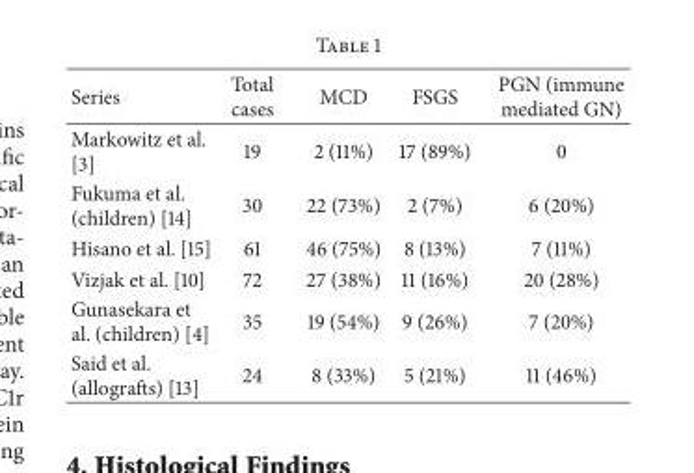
<table><thead><tr><td>Series</td><td>Total cases</td><td>MCD</td><td>FSGS</td><td>PGN (immune mediated GN)</td></tr></thead><tbody><tr><td>Markowitz et al. [3]</td><td>19</td><td>2 (11%)</td><td>17 (89%)</td><td>0</td></tr><tr><td>Fukuma et al. (children) [14]</td><td>30</td><td>22 (73%)</td><td>2 (7%)</td><td>6 (20%)</td></tr><tr><td>Hisano et al. [15]</td><td>61</td><td>46 (75%)</td><td>8 (13%)</td><td>7 (11%)</td></tr><tr><td>Vizjak et al. [10]</td><td>72</td><td>27 (38%)</td><td>11 (16%)</td><td>20 (28%)</td></tr><tr><td>Gunasekara et al. (children) [4]</td><td>35</td><td>19 (54%)</td><td>9 (26%)</td><td>7 (20%)</td></tr><tr><td>Said et al. (allografts) [13]</td><td>24</td><td>8 (33%)</td><td>5 (21%)</td><td>11 (46%)</td></tr></tbody></table>